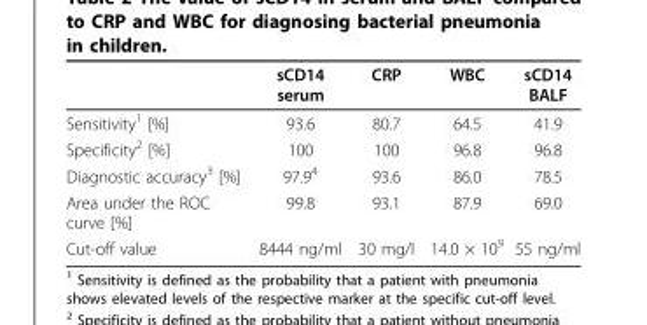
<table><thead><tr><td></td><td>sCD14 serum</td><td>CRP</td><td>WBC</td><td>sCD14 BALF</td></tr></thead><tbody><tr><td>Sensitivity<sup>1</sup> [%]</td><td>93.6</td><td>80.7</td><td>64.5</td><td>41.9</td></tr><tr><td>Specificity<sup>2</sup> [%]</td><td>100</td><td>100</td><td>96.8</td><td>96.8</td></tr><tr><td>Diagnostic accuracy<sup>3</sup> [%]</td><td>97.9<sup>4</sup></td><td>93.6</td><td>86.0</td><td>78.5</td></tr><tr><td>Area under the ROC curve [%]</td><td>99.8</td><td>93.1</td><td>87.9</td><td>69.0</td></tr><tr><td>Cut-off value</td><td>8444 ng/ml</td><td>30 mg/l</td><td>14.0 × 10<sup>9</sup></td><td>55 ng/ml</td></tr></tbody></table>